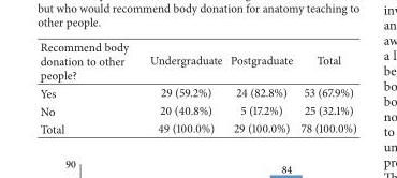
<table><thead><tr><td>Recommend body donation to other people?</td><td>Undergraduate</td><td>Postgraduate</td><td>Total</td></tr></thead><tbody><tr><td>Yes</td><td>29 (59.2%)</td><td>24 (82.8%)</td><td>53 (67.9%)</td></tr><tr><td>No</td><td>20 (40.8%)</td><td>5 (17.2%)</td><td>25 (32.1%)</td></tr><tr><td>Total</td><td>49 (100.0%)</td><td>29 (100.0%)</td><td>78 (100.0%)</td></tr></tbody></table>